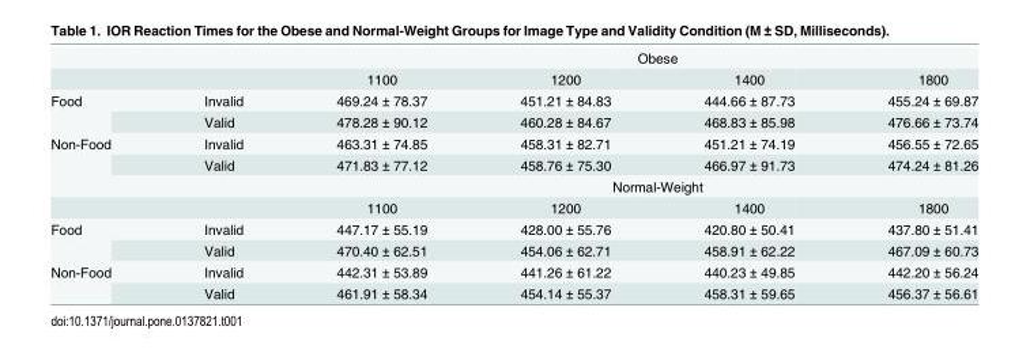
<table><thead><tr><td></td><td></td><td colspan="4">Obese</td></tr><tr><td colspan="2"></td><td>1100</td><td>1200</td><td>1400</td><td>1800</td></tr></thead><tbody><tr><td rowspan="2">Food</td><td>Invalid</td><td>469.24 ± 78.37</td><td>451.21 ± 84.83</td><td>444.66 ± 87.73</td><td>455.24 ± 69.87</td></tr><tr><td>Valid</td><td>478.28 ± 90.12</td><td>460.28 ± 84.67</td><td>468.83 ± 85.98</td><td>476.66 ± 73.74</td></tr><tr><td rowspan="2">Non-Food</td><td>Invalid</td><td>463.31 ± 74.85</td><td>458.31 ± 82.71</td><td>451.21 ± 74.19</td><td>456.55 ± 72.65</td></tr><tr><td>Valid</td><td>471.83 ± 77.12</td><td>458.76 ± 75.30</td><td>466.97 ± 91.73</td><td>474.24 ± 81.26</td></tr><tr><td colspan="2"></td><td colspan="4">Normal-Weight</td></tr><tr><td colspan="2"></td><td>1100</td><td>1200</td><td>1400</td><td>1800</td></tr><tr><td rowspan="2">Food</td><td>Invalid</td><td>447.17 ± 55.19</td><td>428.00 ± 55.76</td><td>420.80 ± 50.41</td><td>437.80 ± 51.41</td></tr><tr><td>Valid</td><td>470.40 ± 62.51</td><td>454.06 ± 62.71</td><td>458.91 ± 62.22</td><td>467.09 ± 60.73</td></tr><tr><td rowspan="2">Non-Food</td><td>Invalid</td><td>442.31 ± 53.89</td><td>441.26 ± 61.22</td><td>440.23 ± 49.85</td><td>442.20 ± 56.24</td></tr><tr><td>Valid</td><td>461.91 ± 58.34</td><td>454.14 ± 55.37</td><td>458.31 ± 59.65</td><td>456.37 ± 56.61</td></tr></tbody></table>